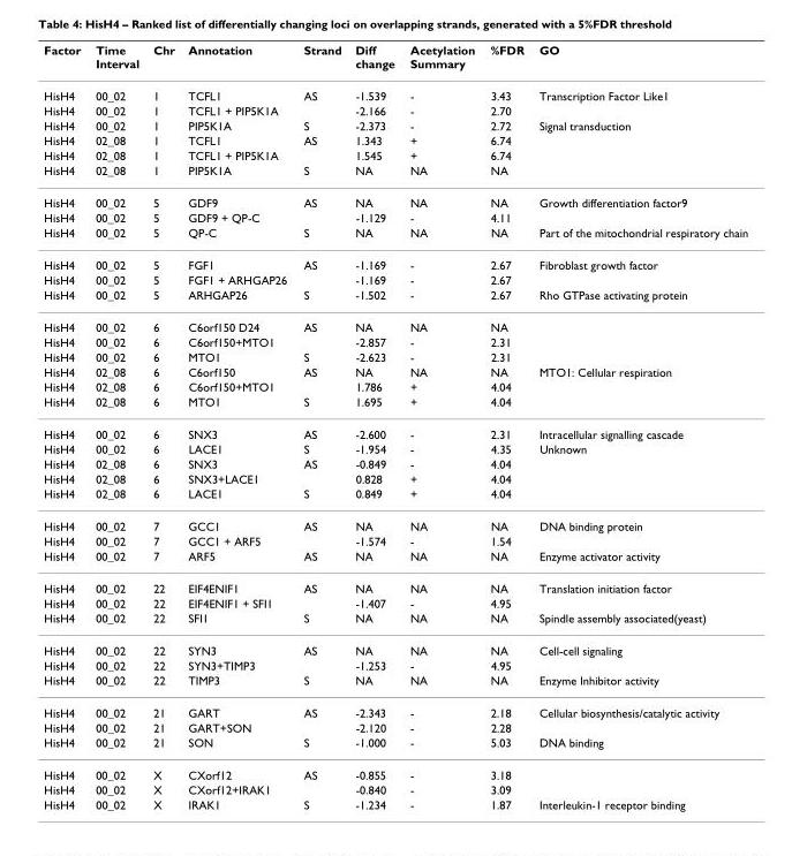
<table><thead><tr><td>Factor</td><td>Time Interval</td><td>Chr</td><td>Annotation</td><td>Strand</td><td>Diff change</td><td>Acetylation Summary</td><td>%FDR</td><td>GO</td></tr></thead><tbody><tr><td>HisH4</td><td>00_02</td><td>1</td><td>TCFL1</td><td>AS</td><td>-1.539</td><td>-</td><td>3.43</td><td>Transcription Factor Like1</td></tr><tr><td>HisH4</td><td>00_02</td><td>1</td><td>TCFL1 + PIP5K1A</td><td></td><td>-2.166</td><td>-</td><td>2.70</td><td></td></tr><tr><td>HisH4</td><td>00_02</td><td>1</td><td>PIP5K1A</td><td>S</td><td>-2.373</td><td>-</td><td>2.72</td><td>Signal transduction</td></tr><tr><td>HisH4</td><td>02_08</td><td>1</td><td>TCFL1</td><td>AS</td><td>1.343</td><td>+</td><td>6.74</td><td></td></tr><tr><td>HisH4</td><td>02_08</td><td>1</td><td>TCFL1 + PIP5K1A</td><td></td><td>1.545</td><td>+</td><td>6.74</td><td></td></tr><tr><td>HisH4</td><td>02_08</td><td>1</td><td>PIP5K1A</td><td>S</td><td>NA</td><td>NA</td><td>NA</td><td></td></tr><tr><td>HisH4</td><td>00_02</td><td>5</td><td>GDF9</td><td>AS</td><td>NA</td><td>NA</td><td>NA</td><td>Growth differentiation factor9</td></tr><tr><td>HisH4</td><td>00_02</td><td>5</td><td>GDF9 + QP-C</td><td></td><td>-1.129</td><td>-</td><td>4.11</td><td></td></tr><tr><td>HisH4</td><td>00_02</td><td>5</td><td>QP-C</td><td>S</td><td>NA</td><td>NA</td><td>NA</td><td>Part of the mitochondrial respiratory chain</td></tr><tr><td>HisH4</td><td>00_02</td><td>5</td><td>FGF1</td><td>AS</td><td>-1.169</td><td>-</td><td>2.67</td><td>Fibroblast growth factor</td></tr><tr><td>HisH4</td><td>00_02</td><td>5</td><td>FGF1 + ARHGAP26</td><td></td><td>-1.169</td><td>-</td><td>2.67</td><td></td></tr><tr><td>HisH4</td><td>00_02</td><td>5</td><td>ARHGAP26</td><td>S</td><td>-1.502</td><td>-</td><td>2.67</td><td>Rho GTPase activating protein</td></tr><tr><td>HisH4</td><td>00_02</td><td>6</td><td>C6orf150 D24</td><td>AS</td><td>NA</td><td>NA</td><td>NA</td><td></td></tr><tr><td>HisH4</td><td>00_02</td><td>6</td><td>C6orf150+MTO1</td><td></td><td>-2.857</td><td>-</td><td>2.31</td><td></td></tr><tr><td>HisH4</td><td>00_02</td><td>6</td><td>MTO1</td><td>S</td><td>-2.623</td><td>-</td><td>2.31</td><td></td></tr><tr><td>HisH4</td><td>02_08</td><td>6</td><td>C6orf150</td><td>AS</td><td>NA</td><td>NA</td><td>NA</td><td>MTO1: Cellular respiration</td></tr><tr><td>HisH4</td><td>02_08</td><td>6</td><td>C6orf150+MTO1</td><td></td><td>1.786</td><td>+</td><td>4.04</td><td></td></tr><tr><td>HisH4</td><td>02_08</td><td>6</td><td>MTO1</td><td>S</td><td>1.695</td><td>+</td><td>4.04</td><td></td></tr><tr><td>HisH4</td><td>00_02</td><td>6</td><td>SNX3</td><td>AS</td><td>-2.600</td><td>-</td><td>2.31</td><td>Intracellular signalling cascade</td></tr><tr><td>HisH4</td><td>00_02</td><td>6</td><td>LACE1</td><td>S</td><td>-1.954</td><td>-</td><td>4.35</td><td>Unknown</td></tr><tr><td>HisH4</td><td>02_08</td><td>6</td><td>SNX3</td><td>AS</td><td>-0.849</td><td>-</td><td>4.04</td><td></td></tr><tr><td>HisH4</td><td>02_08</td><td>6</td><td>SNX3+LACE1</td><td></td><td>0.828</td><td>+</td><td>4.04</td><td></td></tr><tr><td>HisH4</td><td>02_08</td><td>6</td><td>LACE1</td><td>S</td><td>0.849</td><td>+</td><td>4.04</td><td></td></tr><tr><td>HisH4</td><td>00_02</td><td>7</td><td>GCC1</td><td>AS</td><td>NA</td><td>NA</td><td>NA</td><td>DNA binding protein</td></tr><tr><td>HisH4</td><td>00_02</td><td>7</td><td>GCC1 + ARF5</td><td></td><td>-1.574</td><td>-</td><td>1.54</td><td></td></tr><tr><td>HisH4</td><td>00_02</td><td>7</td><td>ARF5</td><td>AS</td><td>NA</td><td>NA</td><td>NA</td><td>Enzyme activator activity</td></tr><tr><td>HisH4</td><td>00_02</td><td>22</td><td>EIF4ENIF1</td><td>AS</td><td>NA</td><td>NA</td><td>NA</td><td>Translation initiation factor</td></tr><tr><td>HisH4</td><td>00_02</td><td>22</td><td>EIF4ENIF1 + SFI1</td><td></td><td>-1.407</td><td>-</td><td>4.95</td><td></td></tr><tr><td>HisH4</td><td>00_02</td><td>22</td><td>SFI1</td><td>S</td><td>NA</td><td>NA</td><td>NA</td><td>Spindle assembly associated(yeast)</td></tr><tr><td>HisH4</td><td>00_02</td><td>22</td><td>SYN3</td><td>AS</td><td>NA</td><td>NA</td><td>NA</td><td>Cell-cell signaling</td></tr><tr><td>HisH4</td><td>00_02</td><td>22</td><td>SYN3+TIMP3</td><td></td><td>-1.253</td><td>-</td><td>4.95</td><td></td></tr><tr><td>HisH4</td><td>00_02</td><td>22</td><td>TIMP3</td><td>S</td><td>NA</td><td>NA</td><td>NA</td><td>Enzyme Inhibitor activity</td></tr><tr><td>HisH4</td><td>00_02</td><td>21</td><td>GART</td><td>AS</td><td>-2.343</td><td>-</td><td>2.18</td><td>Cellular biosynthesis/catalytic activity</td></tr><tr><td>HisH4</td><td>00_02</td><td>21</td><td>GART+SON</td><td></td><td>-2.120</td><td>-</td><td>2.28</td><td></td></tr><tr><td>HisH4</td><td>00_02</td><td>21</td><td>SON</td><td>S</td><td>-1.000</td><td>-</td><td>5.03</td><td>DNA binding</td></tr><tr><td>HisH4</td><td>00_02</td><td>X</td><td>CXorf12</td><td>AS</td><td>-0.855</td><td>-</td><td>3.18</td><td></td></tr><tr><td>HisH4</td><td>00_02</td><td>X</td><td>CXorf12+IRAK1</td><td></td><td>-0.840</td><td>-</td><td>3.09</td><td></td></tr><tr><td>HisH4</td><td>00_02</td><td>X</td><td>IRAK1</td><td>S</td><td>-1.234</td><td>-</td><td>1.87</td><td>Interleukin-1 receptor binding</td></tr></tbody></table>